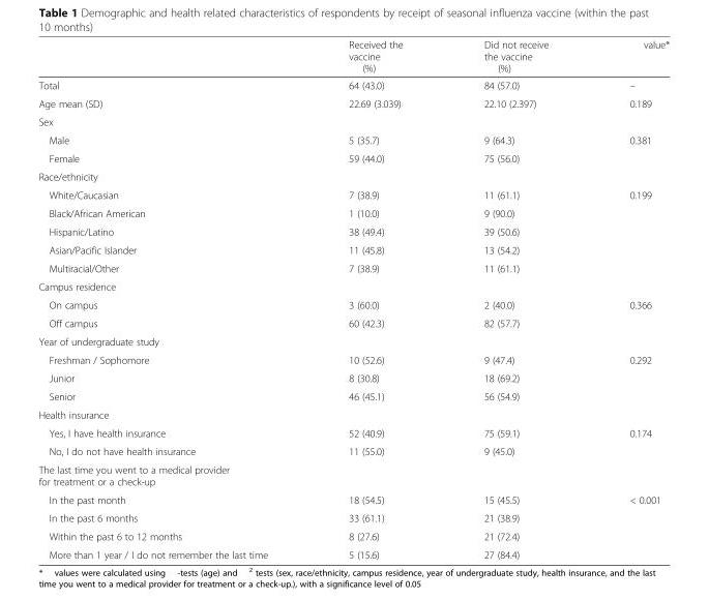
<table><thead><tr><td></td><td>Received the vaccine (%)</td><td>Did not receive the vaccine (%)</td><td>value*</td></tr></thead><tbody><tr><td>Total</td><td>64 (43.0)</td><td>84 (57.0)</td><td>–</td></tr><tr><td>Age mean (SD)</td><td>22.69 (3.039)</td><td>22.10 (2.397)</td><td>0.189</td></tr><tr><td colspan="4">Sex</td></tr><tr><td>Male</td><td>5 (35.7)</td><td>9 (64.3)</td><td rowspan="2">0.381</td></tr><tr><td>Female</td><td>59 (44.0)</td><td>75 (56.0)</td></tr><tr><td colspan="4">Race/ethnicity</td></tr><tr><td>White/Caucasian</td><td>7 (38.9)</td><td>11 (61.1)</td><td rowspan="5">0.199</td></tr><tr><td>Black/African American</td><td>1 (10.0)</td><td>9 (90.0)</td></tr><tr><td>Hispanic/Latino</td><td>38 (49.4)</td><td>39 (50.6)</td></tr><tr><td>Asian/Pacific Islander</td><td>11 (45.8)</td><td>13 (54.2)</td></tr><tr><td>Multiracial/Other</td><td>7 (38.9)</td><td>11 (61.1)</td></tr><tr><td colspan="4">Campus residence</td></tr><tr><td>On campus</td><td>3 (60.0)</td><td>2 (40.0)</td><td rowspan="2">0.366</td></tr><tr><td>Off campus</td><td>60 (42.3)</td><td>82 (57.7)</td></tr><tr><td colspan="4">Year of undergraduate study</td></tr><tr><td>Freshman / Sophomore</td><td>10 (52.6)</td><td>9 (47.4)</td><td rowspan="3">0.292</td></tr><tr><td>Junior</td><td>8 (30.8)</td><td>18 (69.2)</td></tr><tr><td>Senior</td><td>46 (45.1)</td><td>56 (54.9)</td></tr><tr><td colspan="4">Health insurance</td></tr><tr><td>Yes, I have health insurance</td><td>52 (40.9)</td><td>75 (59.1)</td><td rowspan="2">0.174</td></tr><tr><td>No, I do not have health insurance</td><td>11 (55.0)</td><td>9 (45.0)</td></tr><tr><td colspan="4">The last time you went to a medical provider for treatment or a check-up</td></tr><tr><td>In the past month</td><td>18 (54.5)</td><td>15 (45.5)</td><td rowspan="4">&lt; 0.001</td></tr><tr><td>In the past 6 months</td><td>33 (61.1)</td><td>21 (38.9)</td></tr><tr><td>Within the past 6 to 12 months</td><td>8 (27.6)</td><td>21 (72.4)</td></tr><tr><td>More than 1 year / I do not remember the last time</td><td>5 (15.6)</td><td>27 (84.4)</td></tr></tbody></table>